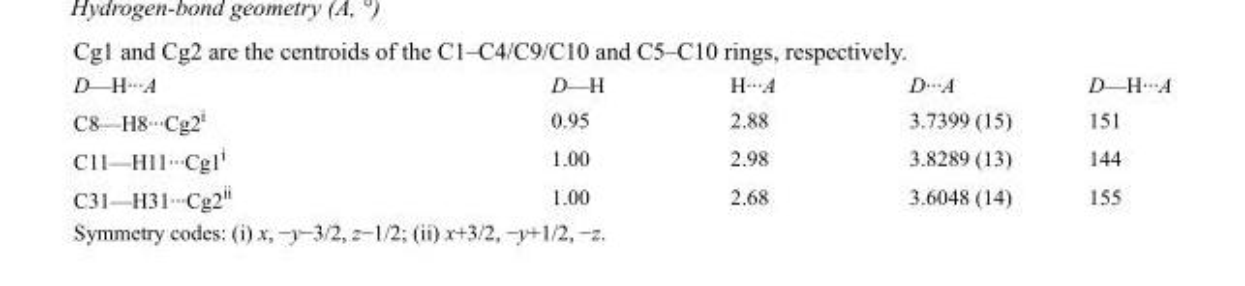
<table><tbody><tr><td>D—H···A</td><td>D—H</td><td>H···A</td><td>D···A</td><td>D—H···A</td></tr><tr><td>C8—H8···Cg2<sup>i</sup></td><td>0.95</td><td>2.88</td><td>3.7399 (15)</td><td>151</td></tr><tr><td>C11—H11···Cg1<sup>i</sup></td><td>1.00</td><td>2.98</td><td>3.8289 (13)</td><td>144</td></tr><tr><td>C31—H31···Cg2<sup>ii</sup></td><td>1.00</td><td>2.68</td><td>3.6048 (14)</td><td>155</td></tr></tbody></table>